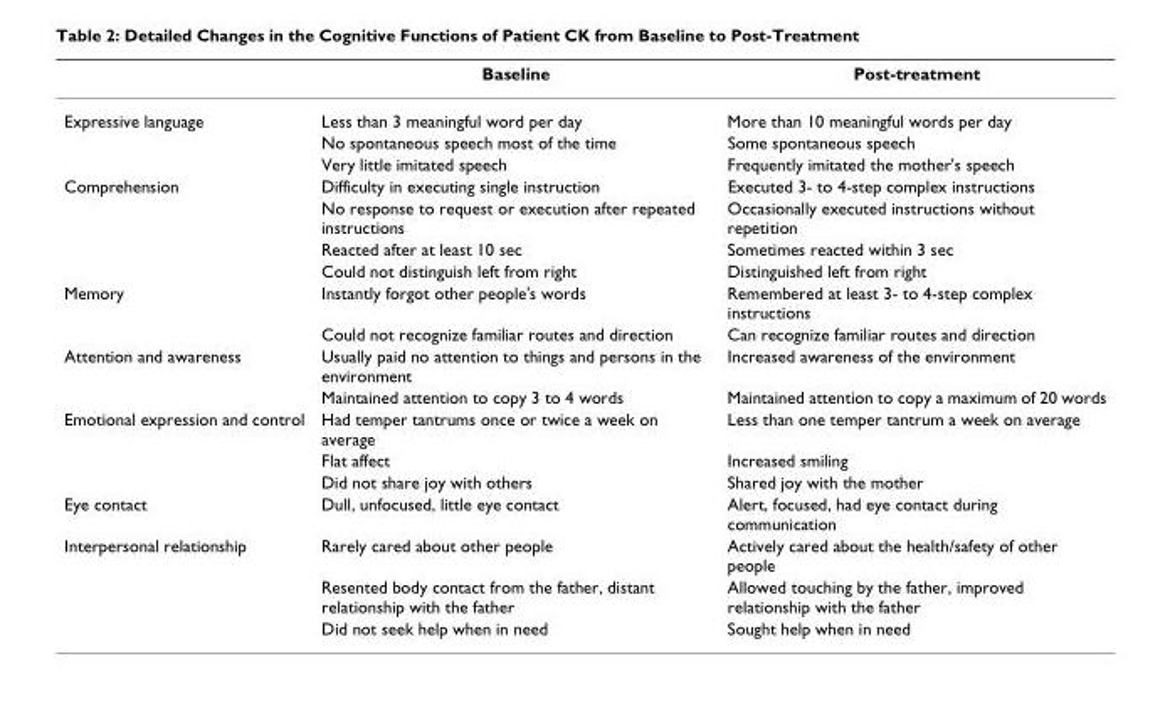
<table><thead><tr><td></td><td>Baseline</td><td>Post-treatment</td></tr></thead><tbody><tr><td rowspan="3">Expressive language</td><td>Less than 3 meaningful word per day</td><td>More than 10 meaningful words per day</td></tr><tr><td>No spontaneous speech most of the time</td><td>Some spontaneous speech</td></tr><tr><td>Very little imitated speech</td><td>Frequently imitated the mother&#x27;s speech</td></tr><tr><td rowspan="4">Comprehension</td><td>Difficulty in executing single instruction</td><td>Executed 3- to 4-step complex instructions</td></tr><tr><td>No response to request or execution after repeated instructions</td><td>Occasionally executed instructions without repetition</td></tr><tr><td>Reacted after at least 10 sec</td><td>Sometimes reacted within 3 sec</td></tr><tr><td>Could not distinguish left from right</td><td>Distinguished left from right</td></tr><tr><td rowspan="2">Memory</td><td>Instantly forgot other people&#x27;s words</td><td>Remembered at least 3- to 4-step complex instructions</td></tr><tr><td>Could not recognize familiar routes and direction</td><td>Can recognize familiar routes and direction</td></tr><tr><td rowspan="2">Attention and awareness</td><td>Usually paid no attention to things and persons in the environment</td><td>Increased awareness of the environment</td></tr><tr><td>Maintained attention to copy 3 to 4 words</td><td>Maintained attention to copy a maximum of 20 words</td></tr><tr><td rowspan="3">Emotional expression and control</td><td>Had temper tantrums once or twice a week on average</td><td>Less than one temper tantrum a week on average</td></tr><tr><td>Flat affect</td><td>Increased smiling</td></tr><tr><td>Did not share joy with others</td><td>Shared joy with the mother</td></tr><tr><td>Eye contact</td><td>Dull, unfocused, little eye contact</td><td>Alert, focused, had eye contact during communication</td></tr><tr><td rowspan="3">Interpersonal relationship</td><td>Rarely cared about other people</td><td>Actively cared about the health/safety of other people</td></tr><tr><td>Resented body contact from the father, distant relationship with the father</td><td>Allowed touching by the father, improved relationship with the father</td></tr><tr><td>Did not seek help when in need</td><td>Sought help when in need</td></tr></tbody></table>